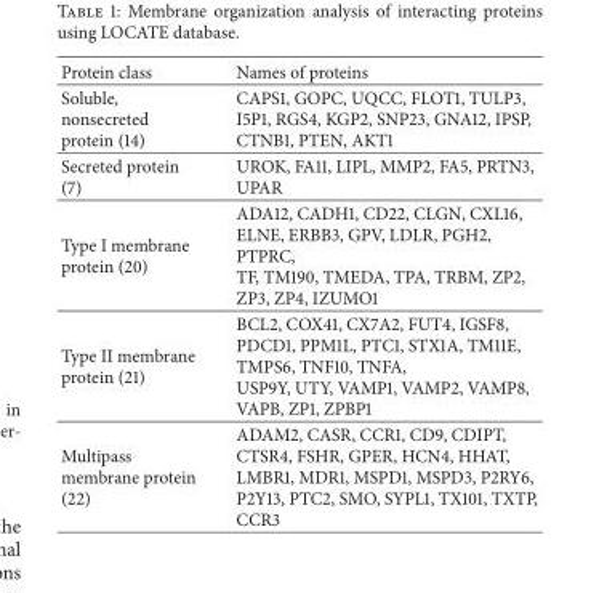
<table><thead><tr><td>Protein class</td><td>Names of proteins</td></tr></thead><tbody><tr><td>Soluble, nonsecreted protein (14)</td><td>CAPS1, GOPC, UQCC, FLOT1, TULP3, I5P1, RGS4, KGP2, SNP23, GNA12, IPSP, CTNB1, PTEN, AKT1</td></tr><tr><td>Secreted protein (7)</td><td>UROK, FA11, LIPL, MMP2, FA5, PRTN3, UPAR</td></tr><tr><td>Type I membrane protein (20)</td><td>ADA12, CADH1, CD22, CLGN, CXL16, ELNE, ERBB3, GPV, LDLR, PGH2, PTPRC, TF, TM190, TMEDA, TPA, TRBM, ZP2, ZP3, ZP4, IZUMO1</td></tr><tr><td>Type II membrane protein (21)</td><td>BCL2, COX41, CX7A2, FUT4, IGSF8, PDCD1, PPM1L, PTC1, STX1A, TM11E, TMPS6, TNF10, TNFA, USP9Y, UTY, VAMP1, VAMP2, VAMP8, VAPB, ZP1, ZPBP1</td></tr><tr><td>Multipass membrane protein (22)</td><td>ADAM2, CASR, CCR1, CD9, CDIPT, CTSR4, FSHR, GPER, HCN4, HHAT, LMBR1, MDR1, MSPD1, MSPD3, P2RY6, P2Y13, PTC2, SMO, SYPL1, TX101, TXTP, CCR3</td></tr></tbody></table>